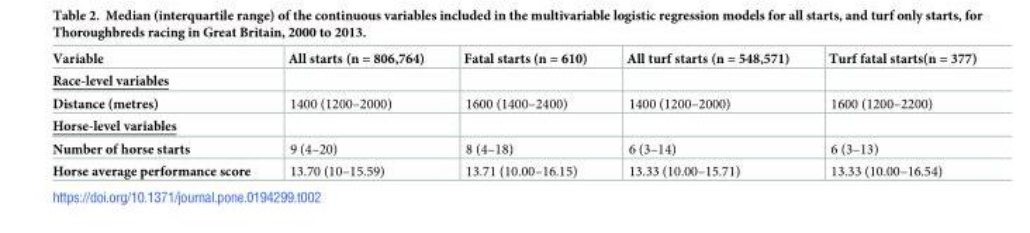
<table><thead><tr><td>Variable</td><td>All starts (n = 806,764)</td><td>Fatal starts (n = 610)</td><td>All turf starts (n = 548,571)</td><td>Turf fatal starts(n = 377)</td></tr></thead><tbody><tr><td colspan="5">Race-level variables</td></tr><tr><td>Distance (metres)</td><td>1400 (1200–2000)</td><td>1600 (1400–2400)</td><td>1400 (1200–2000)</td><td>1600 (1200–2200)</td></tr><tr><td colspan="5">Horse-level variables</td></tr><tr><td>Number of horse starts</td><td>9 (4–20)</td><td>8 (4–18)</td><td>6 (3–14)</td><td>6 (3–13)</td></tr><tr><td>Horse average performance score</td><td>13.70 (10–15.59)</td><td>13.71 (10.00–16.15)</td><td>13.33 (10.00–15.71)</td><td>13.33 (10.00–16.54)</td></tr></tbody></table>